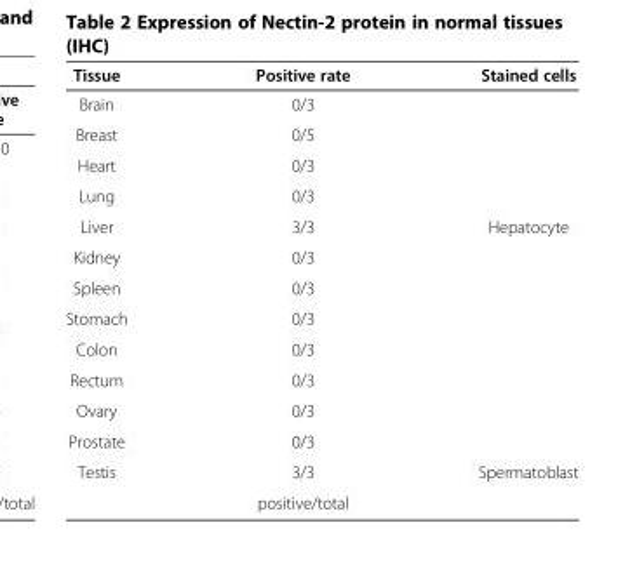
<table><thead><tr><td>Tissue</td><td>Positive rate</td><td>Stained cells</td></tr></thead><tbody><tr><td>Brain</td><td>0/3</td><td></td></tr><tr><td>Breast</td><td>0/5</td><td></td></tr><tr><td>Heart</td><td>0/3</td><td></td></tr><tr><td>Lung</td><td>0/3</td><td></td></tr><tr><td>Liver</td><td>3/3</td><td>Hepatocyte</td></tr><tr><td>Kidney</td><td>0/3</td><td></td></tr><tr><td>Spleen</td><td>0/3</td><td></td></tr><tr><td>Stomach</td><td>0/3</td><td></td></tr><tr><td>Colon</td><td>0/3</td><td></td></tr><tr><td>Rectum</td><td>0/3</td><td></td></tr><tr><td>Ovary</td><td>0/3</td><td></td></tr><tr><td>Prostate</td><td>0/3</td><td></td></tr><tr><td rowspan="2">Testis</td><td>3/3</td><td>Spermatoblast</td></tr><tr><td>positive/total</td><td></td></tr></tbody></table>